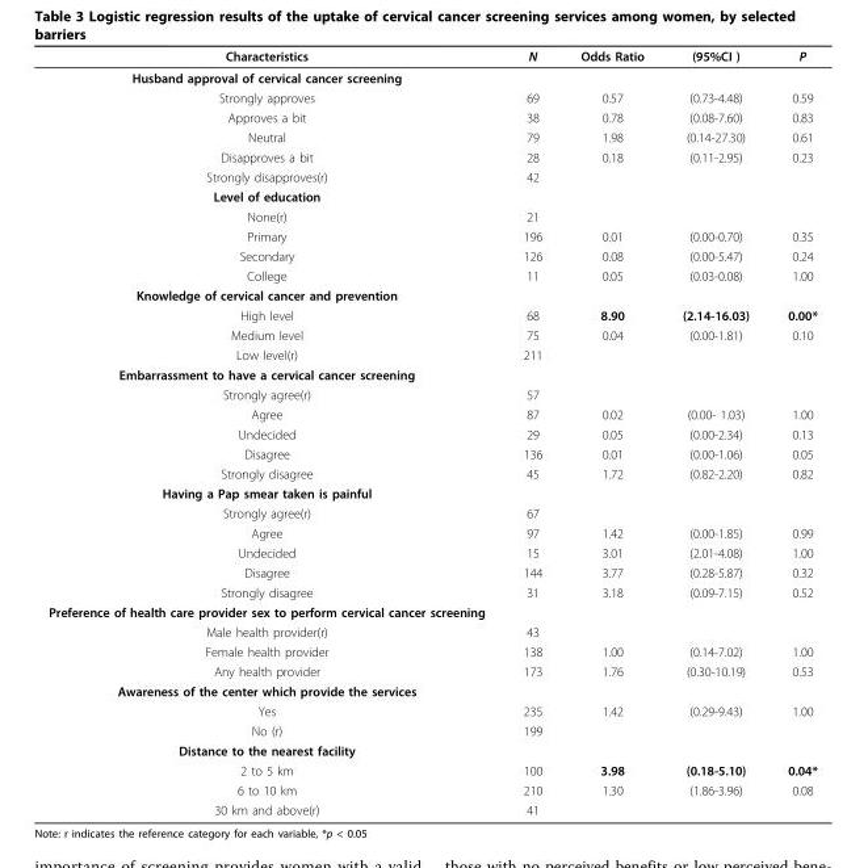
<table><thead><tr><td>Characteristics</td><td>N</td><td>Odds Ratio</td><td>(95%CI )</td><td>P</td></tr></thead><tbody><tr><td colspan="5">Husband approval of cervical cancer screening</td></tr><tr><td>Strongly approves</td><td>69</td><td>0.57</td><td>(0.73-4.48)</td><td>0.59</td></tr><tr><td>Approves a bit</td><td>38</td><td>0.78</td><td>(0.08-7.60)</td><td>0.83</td></tr><tr><td>Neutral</td><td>79</td><td>1.98</td><td>(0.14-27.30)</td><td>0.61</td></tr><tr><td>Disapproves a bit</td><td>28</td><td>0.18</td><td>(0.11-2.95)</td><td>0.23</td></tr><tr><td>Strongly disapproves(r)</td><td>42</td><td></td><td></td><td></td></tr><tr><td colspan="5">Level of education</td></tr><tr><td>None(r)</td><td>21</td><td></td><td></td><td></td></tr><tr><td>Primary</td><td>196</td><td>0.01</td><td>(0.00-0.70)</td><td>0.35</td></tr><tr><td>Secondary</td><td>126</td><td>0.08</td><td>(0.00-5.47)</td><td>0.24</td></tr><tr><td>College</td><td>11</td><td>0.05</td><td>(0.03-0.08)</td><td>1.00</td></tr><tr><td colspan="5">Knowledge of cervical cancer and prevention</td></tr><tr><td>High level</td><td>68</td><td>8.90</td><td>(2.14-16.03)</td><td>0.00*</td></tr><tr><td>Medium level</td><td>75</td><td>0.04</td><td>(0.00-1.81)</td><td>0.10</td></tr><tr><td>Low level(r)</td><td>211</td><td></td><td></td><td></td></tr><tr><td colspan="5">Embarrassment to have a cervical cancer screening</td></tr><tr><td>Strongly agree(r)</td><td>57</td><td></td><td></td><td></td></tr><tr><td>Agree</td><td>87</td><td>0.02</td><td>(0.00- 1.03)</td><td>1.00</td></tr><tr><td>Undecided</td><td>29</td><td>0.05</td><td>(0.00-2.34)</td><td>0.13</td></tr><tr><td>Disagree</td><td>136</td><td>0.01</td><td>(0.00-1.06)</td><td>0.05</td></tr><tr><td>Strongly disagree</td><td>45</td><td>1.72</td><td>(0.82-2.20)</td><td>0.82</td></tr><tr><td colspan="5">Having a Pap smear taken is painful</td></tr><tr><td>Strongly agree(r)</td><td>67</td><td></td><td></td><td></td></tr><tr><td>Agree</td><td>97</td><td>1.42</td><td>(0.00-1.85)</td><td>0.99</td></tr><tr><td>Undecided</td><td>15</td><td>3.01</td><td>(2.01-4.08)</td><td>1.00</td></tr><tr><td>Disagree</td><td>144</td><td>3.77</td><td>(0.28-5.87)</td><td>0.32</td></tr><tr><td>Strongly disagree</td><td>31</td><td>3.18</td><td>(0.09-7.15)</td><td>0.52</td></tr><tr><td colspan="5">Preference of health care provider sex to perform cervical cancer screening</td></tr><tr><td>Male health provider(r)</td><td>43</td><td></td><td></td><td></td></tr><tr><td>Female health provider</td><td>138</td><td>1.00</td><td>(0.14-7.02)</td><td>1.00</td></tr><tr><td>Any health provider</td><td>173</td><td>1.76</td><td>(0.30-10.19)</td><td>0.53</td></tr><tr><td colspan="5">Awareness of the center which provide the services</td></tr><tr><td>Yes</td><td>235</td><td>1.42</td><td>(0.29-9.43)</td><td>1.00</td></tr><tr><td>No (r)</td><td>199</td><td></td><td></td><td></td></tr><tr><td colspan="5">Distance to the nearest facility</td></tr><tr><td>2 to 5 km</td><td>100</td><td>3.98</td><td>(0.18-5.10)</td><td>0.04*</td></tr><tr><td>6 to 10 km</td><td>210</td><td>1.30</td><td>(1.86-3.96)</td><td>0.08</td></tr><tr><td>30 km and above(r)</td><td>41</td><td></td><td></td><td></td></tr></tbody></table>